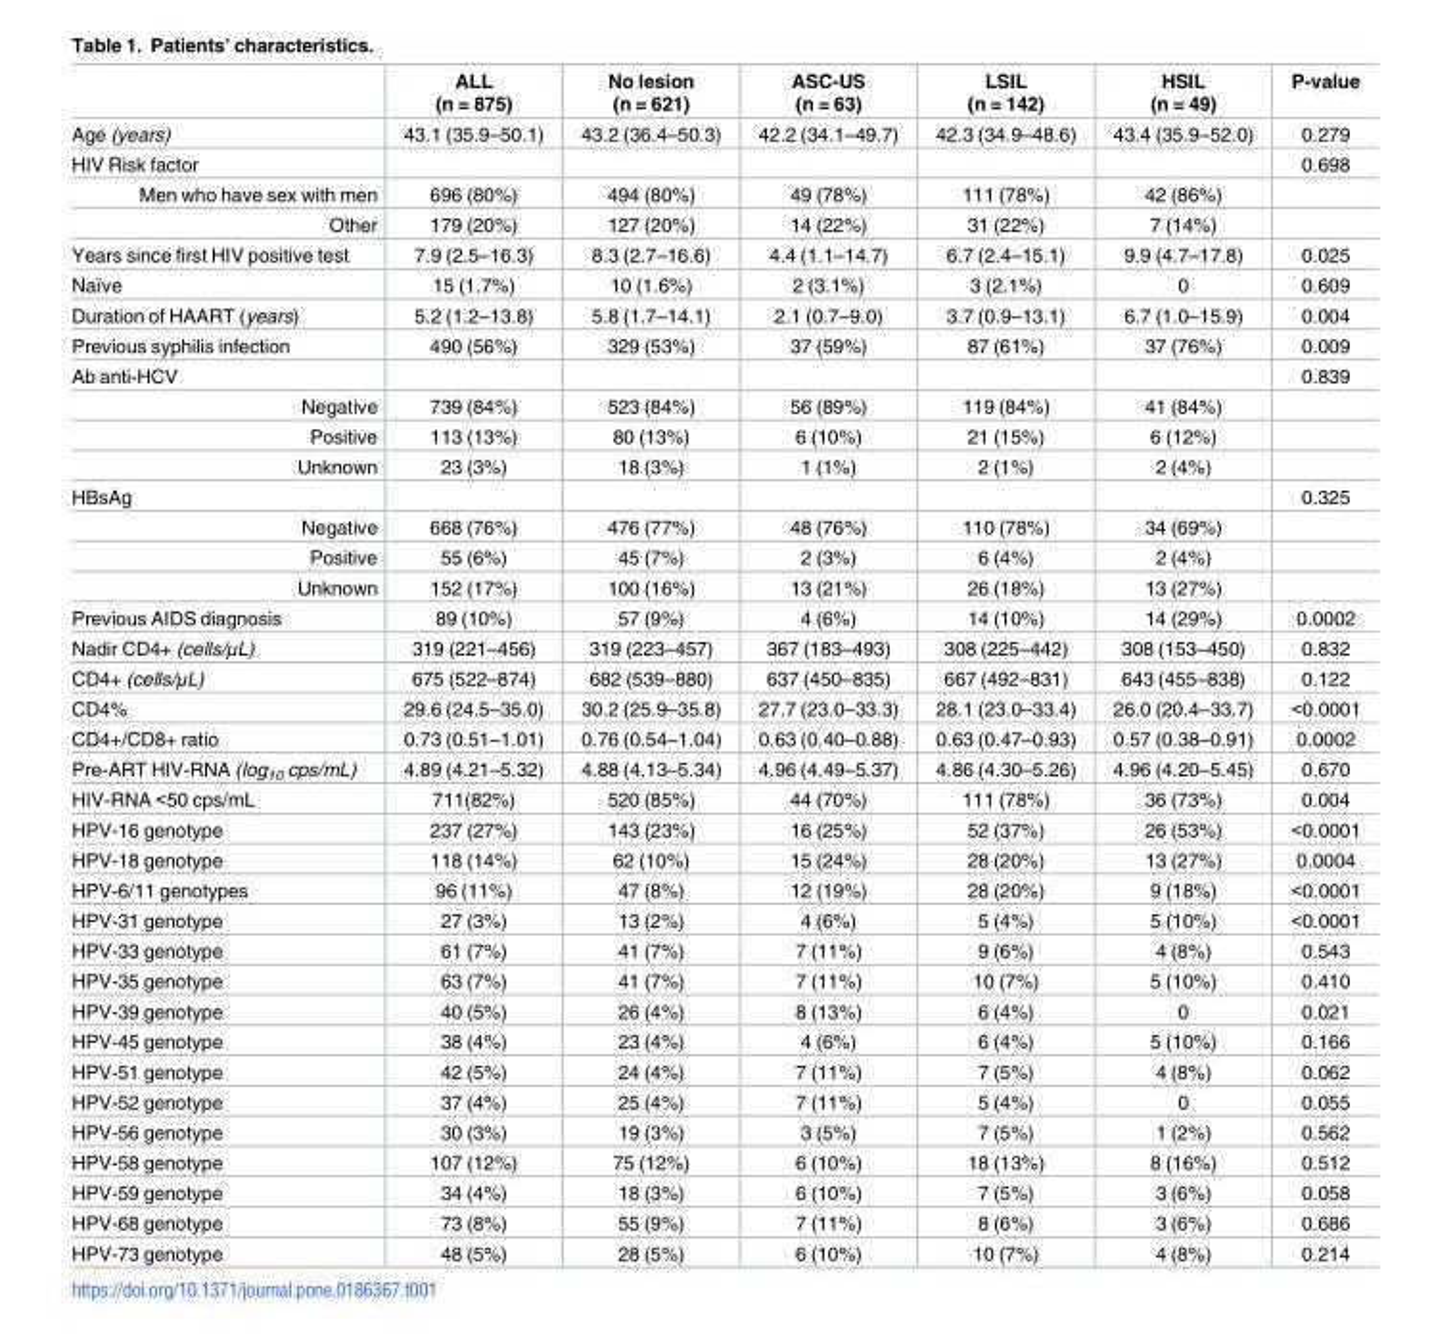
<table><thead><tr><td></td><td>ALL (n = 875)</td><td>No lesion (n = 621)</td><td>ASC-US (n = 63)</td><td>LSIL (n = 142)</td><td>HSIL (n = 49)</td><td>P-value</td></tr></thead><tbody><tr><td>Age (years)</td><td>43.1 (35.9–50.1)</td><td>43.2 (36.4–50.3)</td><td>42.2 (34.1–49.7)</td><td>42.3 (34.9–48.6)</td><td>43.4 (35.9–52.0)</td><td>0.279</td></tr><tr><td>HIV Risk factor</td><td></td><td></td><td></td><td></td><td></td><td>0.698</td></tr><tr><td>Men who have sex with men</td><td>696 (80%)</td><td>494 (80%)</td><td>49 (78%)</td><td>111 (78%)</td><td>42 (86%)</td><td></td></tr><tr><td>Other</td><td>179 (20%)</td><td>127 (20%)</td><td>14 (22%)</td><td>31 (22%)</td><td>7 (14%)</td><td></td></tr><tr><td>Years since first HIV positive test</td><td>7.9 (2.5–16.3)</td><td>8.3 (2.7–16.6)</td><td>4.4 (1.1–14.7)</td><td>6.7 (2.4–15.1)</td><td>9.9 (4.7–17.8)</td><td>0.025</td></tr><tr><td>Naïve</td><td>15 (1.7%)</td><td>10 (1.6%)</td><td>2 (3.1%)</td><td>3 (2.1%)</td><td>0</td><td>0.609</td></tr><tr><td>Duration of HAART (years)</td><td>5.2 (1.2–13.8)</td><td>5.8 (1.7–14.1)</td><td>2.1 (0.7–9.0)</td><td>3.7 (0.9–13.1)</td><td>6.7 (1.0–15.9)</td><td>0.004</td></tr><tr><td>Previous syphilis infection</td><td>490 (56%)</td><td>329 (53%)</td><td>37 (59%)</td><td>87 (61%)</td><td>37 (76%)</td><td>0.009</td></tr><tr><td>Ab anti-HCV</td><td></td><td></td><td></td><td></td><td></td><td>0.839</td></tr><tr><td>Negative</td><td>739 (84%)</td><td>523 (84%)</td><td>56 (89%)</td><td>119 (84%)</td><td>41 (84%)</td><td></td></tr><tr><td>Positive</td><td>113 (13%)</td><td>80 (13%)</td><td>6 (10%)</td><td>21 (15%)</td><td>6 (12%)</td><td></td></tr><tr><td>Unknown</td><td>23 (3%)</td><td>18 (3%)</td><td>1 (1%)</td><td>2 (1%)</td><td>2 (4%)</td><td></td></tr><tr><td>HBsAg</td><td></td><td></td><td></td><td></td><td></td><td>0.325</td></tr><tr><td>Negative</td><td>668 (76%)</td><td>476 (77%)</td><td>48 (76%)</td><td>110 (78%)</td><td>34 (69%)</td><td></td></tr><tr><td>Positive</td><td>55 (6%)</td><td>45 (7%)</td><td>2 (3%)</td><td>6 (4%)</td><td>2 (4%)</td><td></td></tr><tr><td>Unknown</td><td>152 (17%)</td><td>100 (16%)</td><td>13 (21%)</td><td>26 (18%)</td><td>13 (27%)</td><td></td></tr><tr><td>Previous AIDS diagnosis</td><td>89 (10%)</td><td>57 (9%)</td><td>4 (6%)</td><td>14 (10%)</td><td>14 (29%)</td><td>0.0002</td></tr><tr><td>Nadir CD4+ (cells/μL)</td><td>319 (221–456)</td><td>319 (223–457)</td><td>367 (183–493)</td><td>308 (225–442)</td><td>308 (153–450)</td><td>0.832</td></tr><tr><td>CD4+ (cells/μL)</td><td>675 (522–874)</td><td>682 (539–880)</td><td>637 (450–835)</td><td>667 (492–831)</td><td>643 (455–838)</td><td>0.122</td></tr><tr><td>CD4%</td><td>29.6 (24.5–35.0)</td><td>30.2 (25.9–35.8)</td><td>27.7 (23.0–33.3)</td><td>28.1 (23.0–33.4)</td><td>26.0 (20.4–33.7)</td><td>&lt;0.0001</td></tr><tr><td>CD4+/CD8+ ratio</td><td>0.73 (0.51–1.01)</td><td>0.76 (0.54–1.04)</td><td>0.63 (0.40–0.88)</td><td>0.63 (0.47–0.93)</td><td>0.57 (0.38–0.91)</td><td>0.0002</td></tr><tr><td>Pre-ART HIV-RNA (log<sub>10</sub> cps/mL)</td><td>4.89 (4.21–5.32)</td><td>4.88 (4.13–5.34)</td><td>4.96 (4.49–5.37)</td><td>4.86 (4.30–5.26)</td><td>4.96 (4.20–5.45)</td><td>0.670</td></tr><tr><td>HIV-RNA &lt;50 cps/mL</td><td>711(82%)</td><td>520 (85%)</td><td>44 (70%)</td><td>111 (78%)</td><td>36 (73%)</td><td>0.004</td></tr><tr><td>HPV-16 genotype</td><td>237 (27%)</td><td>143 (23%)</td><td>16 (25%)</td><td>52 (37%)</td><td>26 (53%)</td><td>&lt;0.0001</td></tr><tr><td>HPV-18 genotype</td><td>118 (14%)</td><td>62 (10%)</td><td>15 (24%)</td><td>28 (20%)</td><td>13 (27%)</td><td>0.0004</td></tr><tr><td>HPV-6/11 genotypes</td><td>96 (11%)</td><td>47 (8%)</td><td>12 (19%)</td><td>28 (20%)</td><td>9 (18%)</td><td>&lt;0.0001</td></tr><tr><td>HPV-31 genotype</td><td>27 (3%)</td><td>13 (2%)</td><td>4 (6%)</td><td>5 (4%)</td><td>5 (10%)</td><td>&lt;0.0001</td></tr><tr><td>HPV-33 genotype</td><td>61 (7%)</td><td>41 (7%)</td><td>7 (11%)</td><td>9 (6%)</td><td>4 (8%)</td><td>0.543</td></tr><tr><td>HPV-35 genotype</td><td>63 (7%)</td><td>41 (7%)</td><td>7 (11%)</td><td>10 (7%)</td><td>5 (10%)</td><td>0.410</td></tr><tr><td>HPV-39 genotype</td><td>40 (5%)</td><td>26 (4%)</td><td>8 (13%)</td><td>6 (4%)</td><td>0</td><td>0.021</td></tr><tr><td>HPV-45 genotype</td><td>38 (4%)</td><td>23 (4%)</td><td>4 (6%)</td><td>6 (4%)</td><td>5 (10%)</td><td>0.166</td></tr><tr><td>HPV-51 genotype</td><td>42 (5%)</td><td>24 (4%)</td><td>7 (11%)</td><td>7 (5%)</td><td>4 (8%)</td><td>0.062</td></tr><tr><td>HPV-52 genotype</td><td>37 (4%)</td><td>25 (4%)</td><td>7 (11%)</td><td>5 (4%)</td><td>0</td><td>0.055</td></tr><tr><td>HPV-56 genotype</td><td>30 (3%)</td><td>19 (3%)</td><td>3 (5%)</td><td>7 (5%)</td><td>1 (2%)</td><td>0.562</td></tr><tr><td>HPV-58 genotype</td><td>107 (12%)</td><td>75 (12%)</td><td>6 (10%)</td><td>18 (13%)</td><td>8 (16%)</td><td>0.512</td></tr><tr><td>HPV-59 genotype</td><td>34 (4%)</td><td>18 (3%)</td><td>6 (10%)</td><td>7 (5%)</td><td>3 (6%)</td><td>0.058</td></tr><tr><td>HPV-68 genotype</td><td>73 (8%)</td><td>55 (9%)</td><td>7 (11%)</td><td>8 (6%)</td><td>3 (6%)</td><td>0.686</td></tr><tr><td>HPV-73 genotype</td><td>48 (5%)</td><td>28 (5%)</td><td>6 (10%)</td><td>10 (7%)</td><td>4 (8%)</td><td>0.214</td></tr></tbody></table>